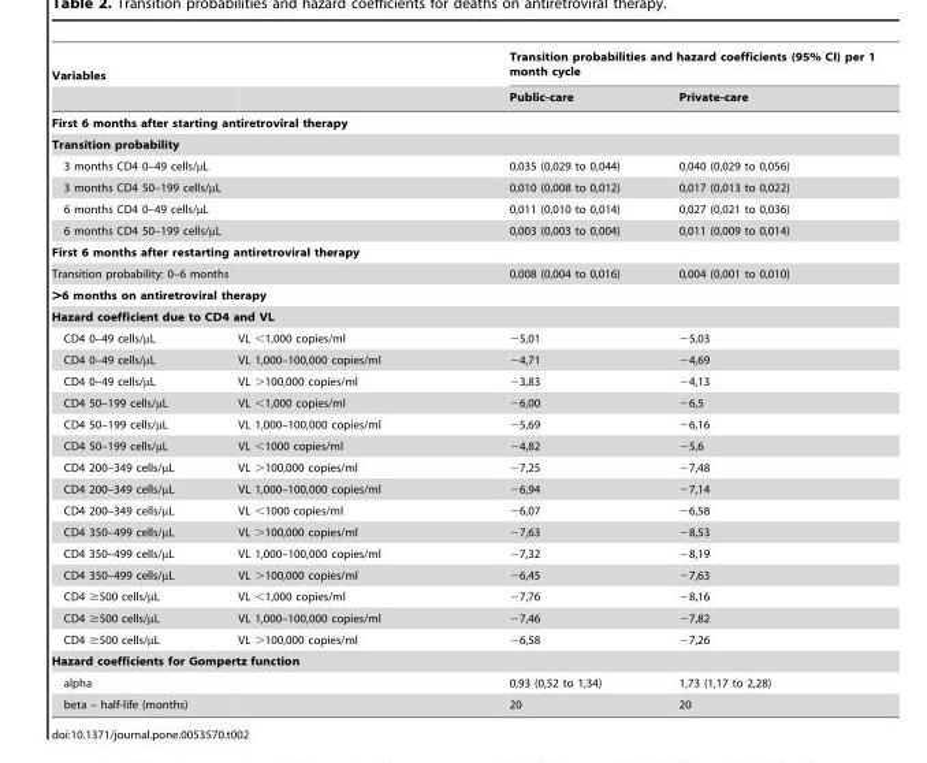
<table><thead><tr><td rowspan="2">Variables</td><td rowspan="2"></td><td colspan="2">Transition probabilities and hazard coefficients (95% CI) per 1 month cycle</td></tr><tr><td>Public-care</td><td>Private-care</td></tr></thead><tbody><tr><td colspan="4">First 6 months after starting antiretroviral therapy</td></tr><tr><td colspan="4">Transition probability</td></tr><tr><td colspan="2">3 months CD4 0–49 cells/µL</td><td>0,035 (0,029 to 0,044)</td><td>0,040 (0,029 to 0,056)</td></tr><tr><td colspan="2">3 months CD4 50–199 cells/µL</td><td>0,010 (0,008 to 0,012)</td><td>0,017 (0,013 to 0,022)</td></tr><tr><td colspan="2">6 months CD4 0–49 cells/µL</td><td>0,011 (0,010 to 0,014)</td><td>0,027 (0,021 to 0,036)</td></tr><tr><td colspan="2">6 months CD4 50–199 cells/µL</td><td>0,003 (0,003 to 0,004)</td><td>0,011 (0,009 to 0,014)</td></tr><tr><td colspan="4">First 6 months after restarting antiretroviral therapy</td></tr><tr><td>Transition probability: 0–6 months</td><td></td><td>0,008 (0,004 to 0,016)</td><td>0,004 (0,001 to 0,010)</td></tr><tr><td colspan="4">&gt;6 months on antiretroviral therapy</td></tr><tr><td colspan="4">Hazard coefficient due to CD4 and VL</td></tr><tr><td>CD4 0–49 cells/µL</td><td>VL &lt;1,000 copies/ml</td><td>−5,01</td><td>−5,03</td></tr><tr><td>CD4 0–49 cells/µL</td><td>VL 1,000–100,000 copies/ml</td><td>−4,71</td><td>−4,69</td></tr><tr><td>CD4 0–49 cells/µL</td><td>VL &gt;100,000 copies/ml</td><td>−3,83</td><td>−4,13</td></tr><tr><td>CD4 50–199 cells/µL</td><td>VL &lt;1,000 copies/ml</td><td>−6,00</td><td>−6,5</td></tr><tr><td>CD4 50–199 cells/µL</td><td>VL 1,000–100,000 copies/ml</td><td>−5,69</td><td>−6,16</td></tr><tr><td>CD4 50–199 cells/µL</td><td>VL &lt;1000 copies/ml</td><td>−4,82</td><td>−5,6</td></tr><tr><td>CD4 200–349 cells/µL</td><td>VL &gt;100,000 copies/ml</td><td>−7,25</td><td>−7,48</td></tr><tr><td>CD4 200–349 cells/µL</td><td>VL 1,000–100,000 copies/ml</td><td>−6,94</td><td>−7,14</td></tr><tr><td>CD4 200–349 cells/µL</td><td>VL &lt;1000 copies/ml</td><td>−6,07</td><td>−6,58</td></tr><tr><td>CD4 350–499 cells/µL</td><td>VL &gt;100,000 copies/ml</td><td>−7,63</td><td>−8,53</td></tr><tr><td>CD4 350–499 cells/µL</td><td>VL 1,000–100,000 copies/ml</td><td>−7,32</td><td>−8,19</td></tr><tr><td>CD4 350–499 cells/µL</td><td>VL &gt;100,000 copies/ml</td><td>−6,45</td><td>−7,63</td></tr><tr><td>CD4 ≥500 cells/µL</td><td>VL &lt;1,000 copies/ml</td><td>−7,76</td><td>−8,16</td></tr><tr><td>CD4 ≥500 cells/µL</td><td>VL 1,000–100,000 copies/ml</td><td>−7,46</td><td>−7,82</td></tr><tr><td>CD4 ≥500 cells/µL</td><td>VL &gt;100,000 copies/ml</td><td>−6,58</td><td>−7,26</td></tr><tr><td colspan="4">Hazard coefficients for Gompertz function</td></tr><tr><td>alpha</td><td></td><td>0,93 (0,52 to 1,34)</td><td>1,73 (1,17 to 2,28)</td></tr><tr><td>beta – half-life (months)</td><td></td><td>20</td><td>20</td></tr></tbody></table>